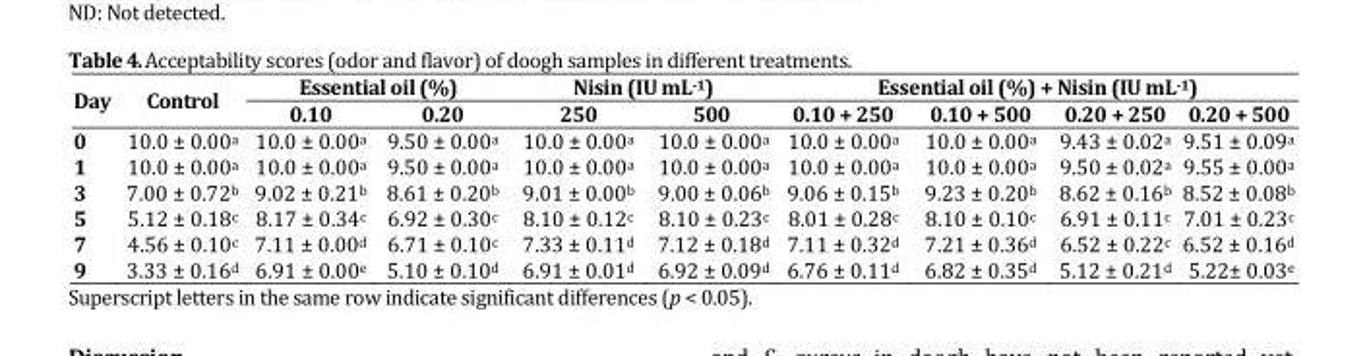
<table><thead><tr><td rowspan="2">Day</td><td rowspan="2">Control</td><td colspan="2">Essential oil (%)</td><td colspan="2">Nisin (IU mL<sup>-1</sup>)</td><td colspan="4">Essential oil (%) + Nisin (IU mL<sup>-1</sup>)</td></tr><tr><td>0.10</td><td>0.20</td><td>250</td><td>500</td><td>0.10 + 250</td><td>0.10 + 500</td><td>0.20 + 250</td><td>0.20 + 500</td></tr></thead><tbody><tr><td>0</td><td>10.0 ± 0.00<sup>a</sup></td><td>10.0 ± 0.00<sup>a</sup></td><td>9.50 ± 0.00<sup>a</sup></td><td>10.0 ± 0.00<sup>a</sup></td><td>10.0 ± 0.00<sup>a</sup></td><td>10.0 ± 0.00<sup>a</sup></td><td>10.0 ± 0.00<sup>a</sup></td><td>9.43 ± 0.02<sup>a</sup></td><td>9.51 ± 0.09<sup>a</sup></td></tr><tr><td>1</td><td>10.0 ± 0.00<sup>a</sup></td><td>10.0 ± 0.00<sup>a</sup></td><td>9.50 ± 0.00<sup>a</sup></td><td>10.0 ± 0.00<sup>a</sup></td><td>10.0 ± 0.00<sup>a</sup></td><td>10.0 ± 0.00<sup>a</sup></td><td>10.0 ± 0.00<sup>a</sup></td><td>9.50 ± 0.02<sup>a</sup></td><td>9.55 ± 0.00<sup>a</sup></td></tr><tr><td>3</td><td>7.00 ± 0.72<sup>b</sup></td><td>9.02 ± 0.21<sup>b</sup></td><td>8.61 ± 0.20<sup>b</sup></td><td>9.01 ± 0.00<sup>b</sup></td><td>9.00 ± 0.06<sup>b</sup></td><td>9.06 ± 0.15<sup>b</sup></td><td>9.23 ± 0.20<sup>b</sup></td><td>8.62 ± 0.16<sup>b</sup></td><td>8.52 ± 0.08<sup>b</sup></td></tr><tr><td>5</td><td>5.12 ± 0.18<sup>c</sup></td><td>8.17 ± 0.34<sup>c</sup></td><td>6.92 ± 0.30<sup>c</sup></td><td>8.10 ± 0.12<sup>c</sup></td><td>8.10 ± 0.23<sup>c</sup></td><td>8.01 ± 0.28<sup>c</sup></td><td>8.10 ± 0.10<sup>c</sup></td><td>6.91 ± 0.11<sup>c</sup></td><td>7.01 ± 0.23<sup>c</sup></td></tr><tr><td>7</td><td>4.56 ± 0.10<sup>c</sup></td><td>7.11 ± 0.00<sup>d</sup></td><td>6.71 ± 0.10<sup>c</sup></td><td>7.33 ± 0.11<sup>d</sup></td><td>7.12 ± 0.18<sup>d</sup></td><td>7.11 ± 0.32<sup>d</sup></td><td>7.21 ± 0.36<sup>d</sup></td><td>6.52 ± 0.22<sup>c</sup></td><td>6.52 ± 0.16<sup>d</sup></td></tr><tr><td>9</td><td>3.33 ± 0.16<sup>d</sup></td><td>6.91 ± 0.00<sup>e</sup></td><td>5.10 ± 0.10<sup>d</sup></td><td>6.91 ± 0.01<sup>d</sup></td><td>6.92 ± 0.09<sup>d</sup></td><td>6.76 ± 0.11<sup>d</sup></td><td>6.82 ± 0.35<sup>d</sup></td><td>5.12 ± 0.21<sup>d</sup></td><td>5.22± 0.03<sup>e</sup></td></tr></tbody></table>